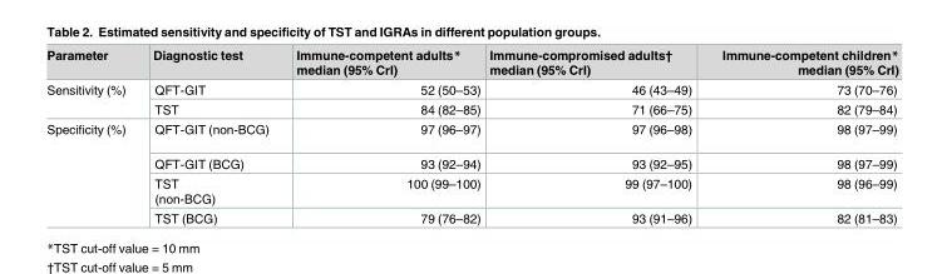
<table><thead><tr><td>Parameter</td><td>Diagnostic test</td><td>Immune-competent adults* median (95% CrI)</td><td>Immune-compromised adults† median (95% CrI)</td><td>Immune-competent children* median (95% CrI)</td></tr></thead><tbody><tr><td rowspan="2">Sensitivity (%)</td><td>QFT-GIT</td><td>52 (50–53)</td><td>46 (43–49)</td><td>73 (70–76)</td></tr><tr><td>TST</td><td>84 (82–85)</td><td>71 (66–75)</td><td>82 (79–84)</td></tr><tr><td rowspan="4">Specificity (%)</td><td>QFT-GIT (non-BCG)</td><td>97 (96–97)</td><td>97 (96–98)</td><td>98 (97–99)</td></tr><tr><td>QFT-GIT (BCG)</td><td>93 (92–94)</td><td>93 (92–95)</td><td>98 (97–99)</td></tr><tr><td>TST (non-BCG)</td><td>100 (99–100)</td><td>99 (97–100)</td><td>98 (96–99)</td></tr><tr><td>TST (BCG)</td><td>79 (76–82)</td><td>93 (91–96)</td><td>82 (81–83)</td></tr></tbody></table>